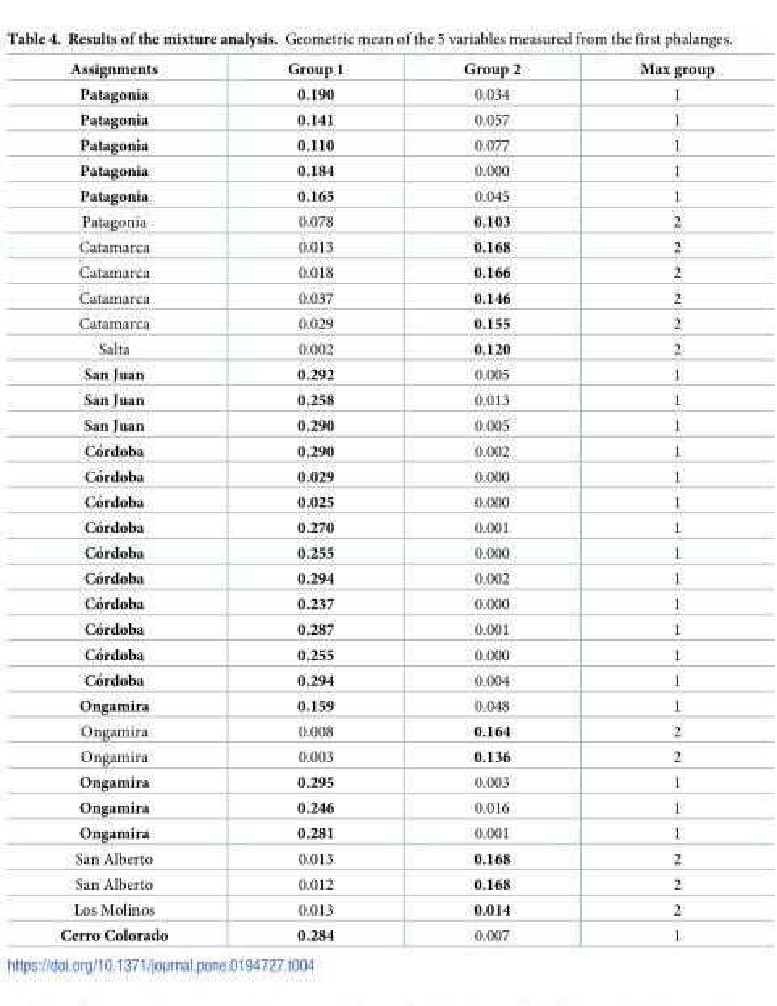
<table><thead><tr><td>Assignments</td><td>Group 1</td><td>Group 2</td><td>Max group</td></tr></thead><tbody><tr><td>Patagonia</td><td>0.190</td><td>0.034</td><td>1</td></tr><tr><td>Patagonia</td><td>0.141</td><td>0.057</td><td>1</td></tr><tr><td>Patagonia</td><td>0.110</td><td>0.077</td><td>1</td></tr><tr><td>Patagonia</td><td>0.184</td><td>0.000</td><td>1</td></tr><tr><td>Patagonia</td><td>0.165</td><td>0.045</td><td>1</td></tr><tr><td>Patagonia</td><td>0.078</td><td>0.103</td><td>2</td></tr><tr><td>Catamarca</td><td>0.013</td><td>0.168</td><td>2</td></tr><tr><td>Catamarca</td><td>0.018</td><td>0.166</td><td>2</td></tr><tr><td>Catamarca</td><td>0.037</td><td>0.146</td><td>2</td></tr><tr><td>Catamarca</td><td>0.029</td><td>0.155</td><td>2</td></tr><tr><td>Salta</td><td>0.002</td><td>0.120</td><td>2</td></tr><tr><td>San Juan</td><td>0.292</td><td>0.005</td><td>1</td></tr><tr><td>San Juan</td><td>0.258</td><td>0.013</td><td>1</td></tr><tr><td>San Juan</td><td>0.290</td><td>0.005</td><td>1</td></tr><tr><td>Co´rdoba</td><td>0.290</td><td>0.002</td><td>1</td></tr><tr><td>Co´rdoba</td><td>0.029</td><td>0.000</td><td>1</td></tr><tr><td>Co´rdoba</td><td>0.025</td><td>0.000</td><td>1</td></tr><tr><td>Co´rdoba</td><td>0.270</td><td>0.001</td><td>1</td></tr><tr><td>Co´rdoba</td><td>0.255</td><td>0.000</td><td>1</td></tr><tr><td>Co´rdoba</td><td>0.294</td><td>0.002</td><td>1</td></tr><tr><td>Co´rdoba</td><td>0.237</td><td>0.000</td><td>1</td></tr><tr><td>Co´rdoba</td><td>0.287</td><td>0.001</td><td>1</td></tr><tr><td>Co´rdoba</td><td>0.255</td><td>0.000</td><td>1</td></tr><tr><td>Co´rdoba</td><td>0.294</td><td>0.004</td><td>1</td></tr><tr><td>Ongamira</td><td>0.159</td><td>0.048</td><td>1</td></tr><tr><td>Ongamira</td><td>0.008</td><td>0.164</td><td>2</td></tr><tr><td>Ongamira</td><td>0.003</td><td>0.136</td><td>2</td></tr><tr><td>Ongamira</td><td>0.295</td><td>0.003</td><td>1</td></tr><tr><td>Ongamira</td><td>0.246</td><td>0.016</td><td>1</td></tr><tr><td>Ongamira</td><td>0.281</td><td>0.001</td><td>1</td></tr><tr><td>San Alberto</td><td>0.013</td><td>0.168</td><td>2</td></tr><tr><td>San Alberto</td><td>0.012</td><td>0.168</td><td>2</td></tr><tr><td>Los Molinos</td><td>0.013</td><td>0.014</td><td>2</td></tr><tr><td>Cerro Colorado</td><td>0.284</td><td>0.007</td><td>1</td></tr></tbody></table>